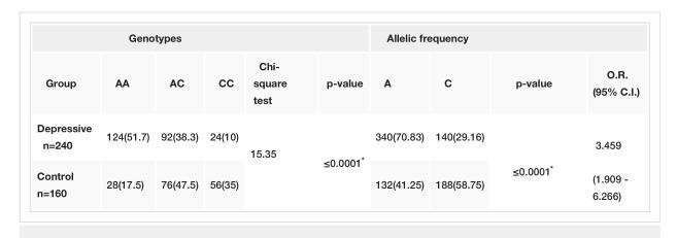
<table><tbody><tr><td colspan="6">Genotypes</td><td colspan="4">Allelic frequency</td></tr><tr><td>Group</td><td>AA</td><td>AC</td><td>CC</td><td>Chi- square test</td><td>p-value</td><td>A</td><td>C</td><td>p-value</td><td>O.R. (95% C.I.)</td></tr><tr><td>Depressive n=240</td><td>124(51.7)</td><td>92(38.3)</td><td>24(10)</td><td rowspan="2">15.35</td><td rowspan="2">≤0.0001*</td><td>340(70.83)</td><td>140(29.16)</td><td rowspan="2">≤0.0001*</td><td rowspan="2">3.459 (1.909 - 6.266)</td></tr><tr><td>Control n=160</td><td>28(17.5)</td><td>76(47.5)</td><td>56(35)</td><td>132(41.25)</td><td>188(58.75)</td></tr></tbody></table>